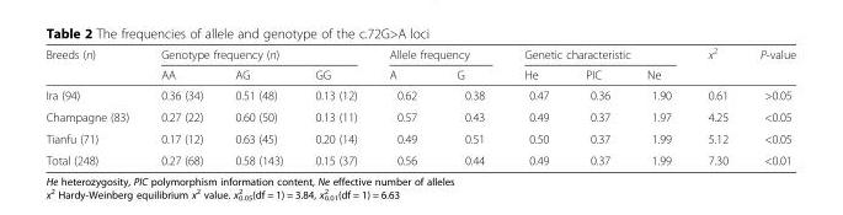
<table><thead><tr><td rowspan="2">Breeds (n)</td><td colspan="3">Genotype frequency (n)</td><td colspan="2">Allele frequency</td><td colspan="3">Genetic characteristic</td><td rowspan="2">x<sup>2</sup></td><td rowspan="2">P-value</td></tr><tr><td>AA</td><td>AG</td><td>GG</td><td>A</td><td>G</td><td>He</td><td>PIC</td><td>Ne</td></tr></thead><tbody><tr><td>Ira (94)</td><td>0.36 (34)</td><td>0.51 (48)</td><td>0.13 (12)</td><td>0.62</td><td>0.38</td><td>0.47</td><td>0.36</td><td>1.90</td><td>0.61</td><td>&gt;0.05</td></tr><tr><td>Champagne (83)</td><td>0.27 (22)</td><td>0.60 (50)</td><td>0.13 (11)</td><td>0.57</td><td>0.43</td><td>0.49</td><td>0.37</td><td>1.97</td><td>4.25</td><td>&lt;0.05</td></tr><tr><td>Tianfu (71)</td><td>0.17 (12)</td><td>0.63 (45)</td><td>0.20 (14)</td><td>0.49</td><td>0.51</td><td>0.50</td><td>0.37</td><td>1.99</td><td>5.12</td><td>&lt;0.05</td></tr><tr><td>Total (248)</td><td>0.27 (68)</td><td>0.58 (143)</td><td>0.15 (37)</td><td>0.56</td><td>0.44</td><td>0.49</td><td>0.37</td><td>1.99</td><td>7.30</td><td>&lt;0.01</td></tr></tbody></table>